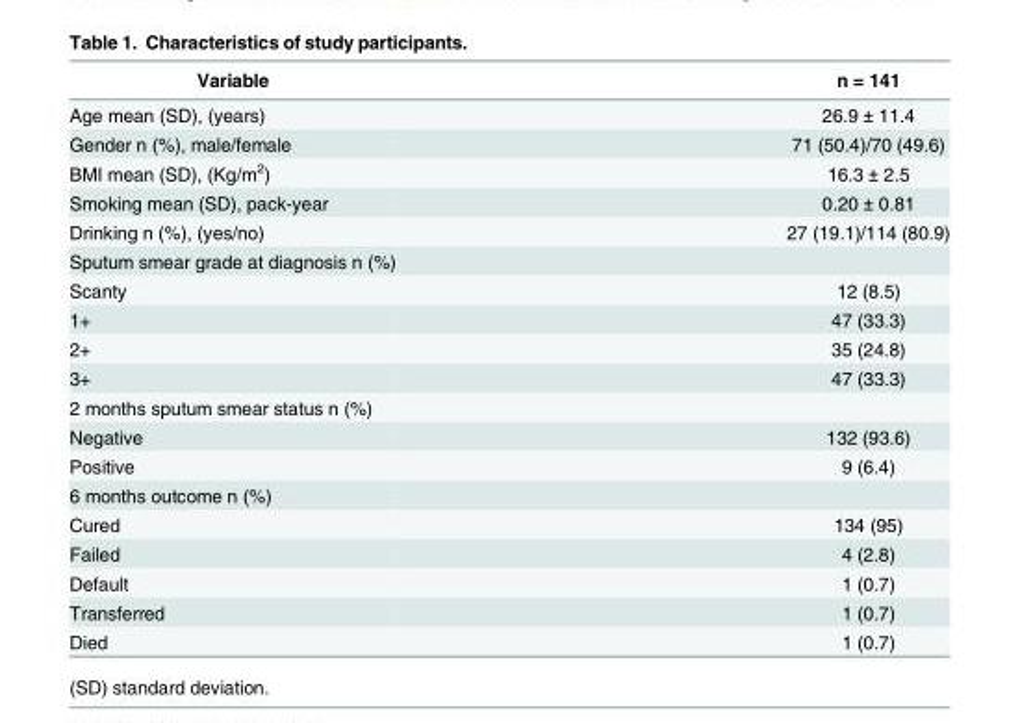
<table><thead><tr><td>Variable</td><td>n = 141</td></tr></thead><tbody><tr><td>Age mean (SD), (years)</td><td>26.9 ± 11.4</td></tr><tr><td>Gender n (%), male/female</td><td>71 (50.4)/70 (49.6)</td></tr><tr><td>BMI mean (SD), (Kg/m<sup>2</sup>)</td><td>16.3 ± 2.5</td></tr><tr><td>Smoking mean (SD), pack-year</td><td>0.20 ± 0.81</td></tr><tr><td>Drinking n (%), (yes/no)</td><td>27 (19.1)/114 (80.9)</td></tr><tr><td colspan="2">Sputum smear grade at diagnosis n (%)</td></tr><tr><td>Scanty</td><td>12 (8.5)</td></tr><tr><td>1+</td><td>47 (33.3)</td></tr><tr><td>2+</td><td>35 (24.8)</td></tr><tr><td>3+</td><td>47 (33.3)</td></tr><tr><td colspan="2">2 months sputum smear status n (%)</td></tr><tr><td>Negative</td><td>132 (93.6)</td></tr><tr><td>Positive</td><td>9 (6.4)</td></tr><tr><td colspan="2">6 months outcome n (%)</td></tr><tr><td>Cured</td><td>134 (95)</td></tr><tr><td>Failed</td><td>4 (2.8)</td></tr><tr><td>Default</td><td>1 (0.7)</td></tr><tr><td>Transferred</td><td>1 (0.7)</td></tr><tr><td>Died</td><td>1 (0.7)</td></tr></tbody></table>